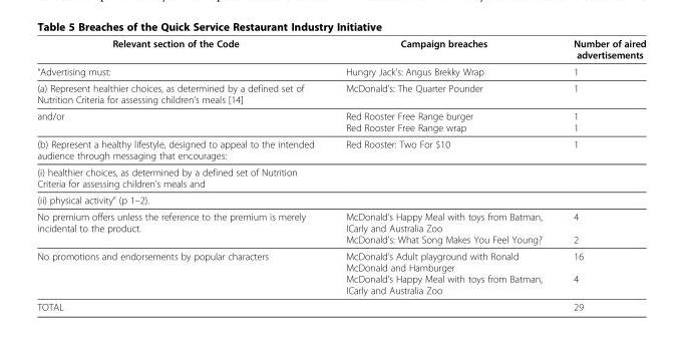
<table><thead><tr><td>Relevant section of the Code</td><td>Campaign breaches</td><td>Number of aired advertisements</td></tr></thead><tbody><tr><td>“Advertising must:</td><td>Hungry Jack&#x27;s: Angus Brekky Wrap</td><td>1</td></tr><tr><td>(a) Represent healthier choices, as determined by a defined set of Nutrition Criteria for assessing children’s meals [14]</td><td>McDonald’s: The Quarter Pounder</td><td>1</td></tr><tr><td rowspan="2">and/or</td><td>Red Rooster Free Range burger</td><td>1</td></tr><tr><td>Red Rooster Free Range wrap</td><td>1</td></tr><tr><td>(b) Represent a healthy lifestyle, designed to appeal to the intended audience through messaging that encourages:</td><td>Red Rooster: Two For $10</td><td>1</td></tr><tr><td colspan="3">(i) healthier choices, as determined by a defined set of Nutrition Criteria for assessing children’s meals and</td></tr><tr><td colspan="3">(ii) physical activity” (p 1–2).</td></tr><tr><td rowspan="2">No premium offers unless the reference to the premium is merely incidental to the product.</td><td>McDonald’s Happy Meal with toys from Batman, ICarly and Australia Zoo</td><td>4</td></tr><tr><td>McDonald&#x27;s: What Song Makes You Feel Young?</td><td>2</td></tr><tr><td rowspan="2">No promotions and endorsements by popular characters</td><td>McDonald’s Adult playground with Ronald McDonald and Hamburger</td><td>16</td></tr><tr><td>McDonald’s Happy Meal with toys from Batman, ICarly and Australia Zoo</td><td>4</td></tr><tr><td>TOTAL</td><td></td><td>29</td></tr></tbody></table>